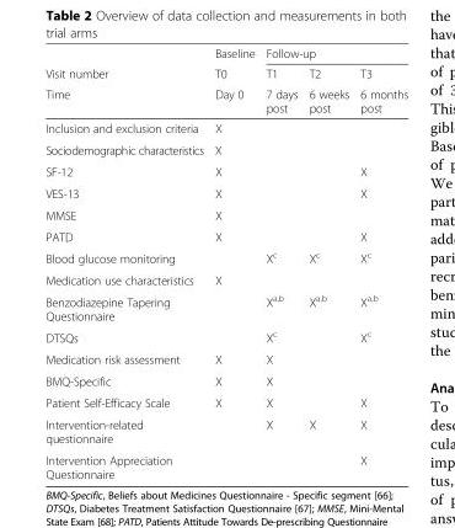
<table><thead><tr><td rowspan="3">Visit number Time</td><td rowspan="3">Baseline T0 Day 0</td><td colspan="3">Follow-up</td></tr><tr><td rowspan="2">T1 7 days post</td><td rowspan="2">T2 6 weeks post</td><td rowspan="2">T3 6 months post</td></tr><tr></tr></thead><tbody><tr><td>Inclusion and exclusion criteria</td><td>X</td><td></td><td></td><td></td></tr><tr><td>Sociodemographic characteristics</td><td>X</td><td></td><td></td><td></td></tr><tr><td>SF-12</td><td>X</td><td></td><td></td><td>X</td></tr><tr><td>VES-13</td><td>X</td><td></td><td></td><td>X</td></tr><tr><td>MMSE</td><td>X</td><td></td><td></td><td></td></tr><tr><td>PATD</td><td>X</td><td></td><td></td><td>X</td></tr><tr><td>Blood glucose monitoring</td><td></td><td>X<sup>c</sup></td><td>X<sup>c</sup></td><td>X<sup>c</sup></td></tr><tr><td>Medication use characteristics</td><td>X</td><td></td><td></td><td></td></tr><tr><td>Benzodiazepine Tapering Questionnaire</td><td></td><td>X<sup>a,b</sup></td><td>X<sup>a,b</sup></td><td>X<sup>a,b</sup></td></tr><tr><td>DTSQs</td><td></td><td>X<sup>c</sup></td><td></td><td>X<sup>c</sup></td></tr><tr><td>Medication risk assessment</td><td>X</td><td>X</td><td></td><td></td></tr><tr><td>BMQ-Specific</td><td>X</td><td>X</td><td></td><td></td></tr><tr><td>Patient Self-Efficacy Scale</td><td>X</td><td>X</td><td></td><td>X</td></tr><tr><td>Intervention-related questionnaire</td><td></td><td>X</td><td>X</td><td>X</td></tr><tr><td>Intervention Appreciation Questionnaire</td><td></td><td></td><td></td><td>X</td></tr></tbody></table>